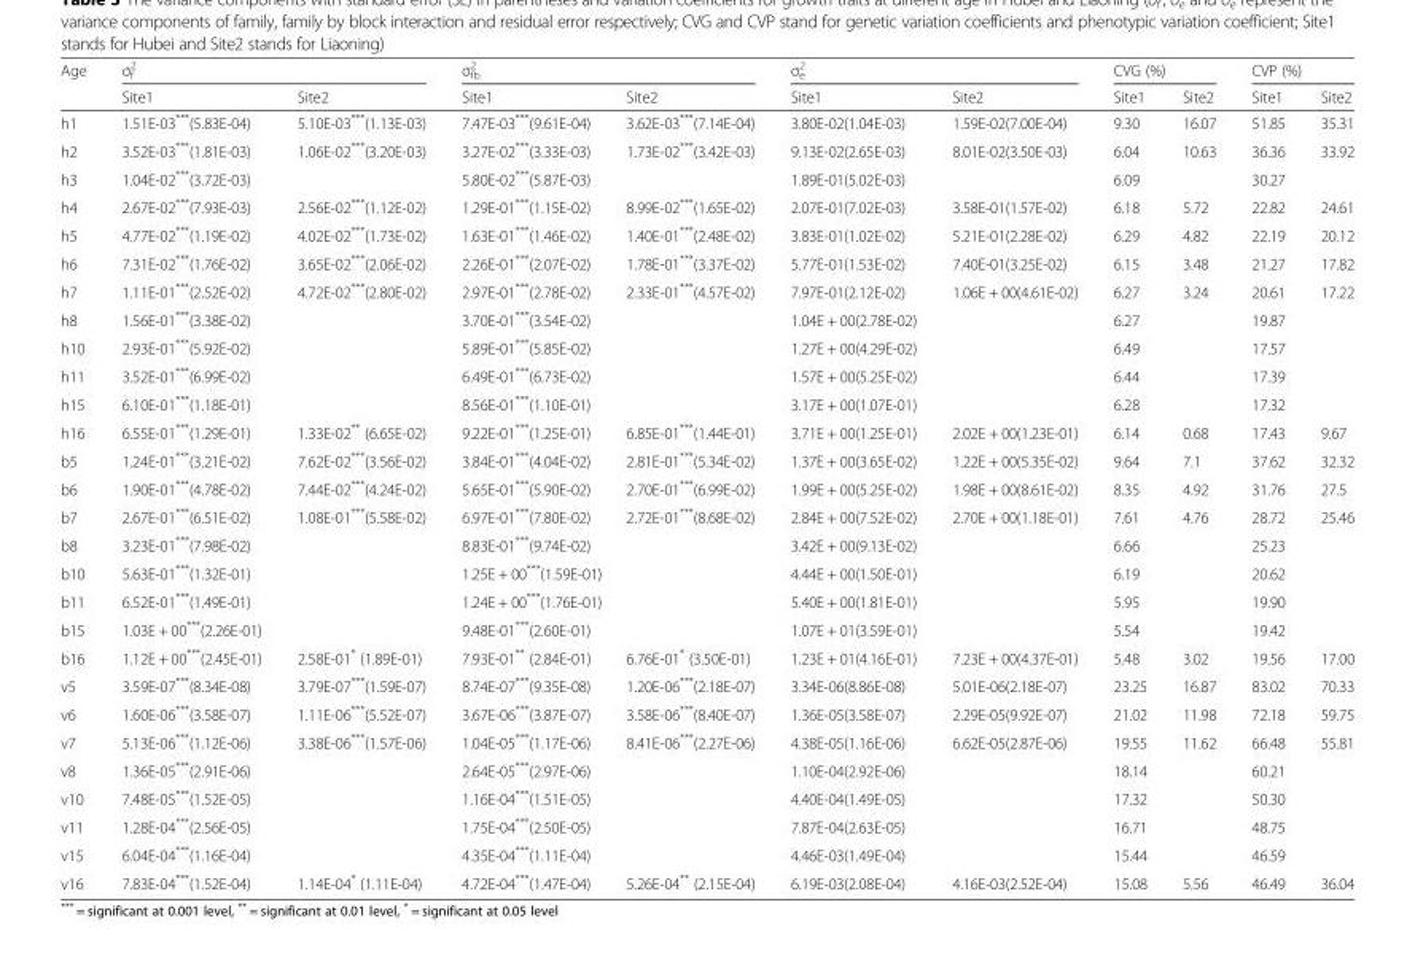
<table><thead><tr><td rowspan="2">Age</td><td colspan="2">σ<sub>f</sub> <sup>2</sup></td><td colspan="2">σ<sub>fb</sub> <sup>2</sup></td><td colspan="2">σ<sub>e</sub> <sup>2</sup></td><td colspan="2">CVG (%)</td><td colspan="2">CVP (%)</td></tr><tr><td>Site1</td><td>Site2</td><td>Site1</td><td>Site2</td><td>Site1</td><td>Site2</td><td>Site1</td><td>Site2</td><td>Site1</td><td>Site2</td></tr></thead><tbody><tr><td>h1</td><td>1.51E-03***(5.83E-04)</td><td>5.10E-03***(1.13E-03)</td><td>7.47E-03***(9.61E-04)</td><td>3.62E-03***(7.14E-04)</td><td>3.80E-02(1.04E-03)</td><td>1.59E-02(7.00E-04)</td><td>9.30</td><td>16.07</td><td>51.85</td><td>35.31</td></tr><tr><td>h2</td><td>3.52E-03***(1.81E-03)</td><td>1.06E-02***(3.20E-03)</td><td>3.27E-02***(3.33E-03)</td><td>1.73E-02***(3.42E-03)</td><td>9.13E-02(2.65E-03)</td><td>8.01E-02(3.50E-03)</td><td>6.04</td><td>10.63</td><td>36.36</td><td>33.92</td></tr><tr><td>h3</td><td>1.04E-02***(3.72E-03)</td><td></td><td>5.80E-02***(5.87E-03)</td><td></td><td>1.89E-01(5.02E-03)</td><td></td><td>6.09</td><td></td><td>30.27</td><td></td></tr><tr><td>h4</td><td>2.67E-02***(7.93E-03)</td><td>2.56E-02***(1.12E-02)</td><td>1.29E-01***(1.15E-02)</td><td>8.99E-02***(1.65E-02)</td><td>2.07E-01(7.02E-03)</td><td>3.58E-01(1.57E-02)</td><td>6.18</td><td>5.72</td><td>22.82</td><td>24.61</td></tr><tr><td>h5</td><td>4.77E-02***(1.19E-02)</td><td>4.02E-02***(1.73E-02)</td><td>1.63E-01***(1.46E-02)</td><td>1.40E-01***(2.48E-02)</td><td>3.83E-01(1.02E-02)</td><td>5.21E-01(2.28E-02)</td><td>6.29</td><td>4.82</td><td>22.19</td><td>20.12</td></tr><tr><td>h6</td><td>7.31E-02***(1.76E-02)</td><td>3.65E-02***(2.06E-02)</td><td>2.26E-01***(2.07E-02)</td><td>1.78E-01***(3.37E-02)</td><td>5.77E-01(1.53E-02)</td><td>7.40E-01(3.25E-02)</td><td>6.15</td><td>3.48</td><td>21.27</td><td>17.82</td></tr><tr><td>h7</td><td>1.11E-01***(2.52E-02)</td><td>4.72E-02***(2.80E-02)</td><td>2.97E-01***(2.78E-02)</td><td>2.33E-01***(4.57E-02)</td><td>7.97E-01(2.12E-02)</td><td>1.06E + 00(4.61E-02)</td><td>6.27</td><td>3.24</td><td>20.61</td><td>17.22</td></tr><tr><td>h8</td><td>1.56E-01***(3.38E-02)</td><td></td><td>3.70E-01***(3.54E-02)</td><td></td><td colspan="2">1.04E + 00(2.78E-02)</td><td>6.27</td><td></td><td>19.87</td><td></td></tr><tr><td>h10</td><td>2.93E-01***(5.92E-02)</td><td></td><td>5.89E-01***(5.85E-02)</td><td></td><td colspan="2">1.27E + 00(4.29E-02)</td><td>6.49</td><td></td><td>17.57</td><td></td></tr><tr><td>h11</td><td>3.52E-01***(6.99E-02)</td><td></td><td>6.49E-01***(6.73E-02)</td><td></td><td colspan="2">1.57E + 00(5.25E-02)</td><td>6.44</td><td></td><td>17.39</td><td></td></tr><tr><td>h15</td><td>6.10E-01***(1.18E-01)</td><td></td><td>8.56E-01***(1.10E-01)</td><td></td><td colspan="2">3.17E + 00(1.07E-01)</td><td>6.28</td><td></td><td>17.32</td><td></td></tr><tr><td>h16</td><td>6.55E-01***(1.29E-01)</td><td>1.33E-02** (6.65E-02)</td><td>9.22E-01***(1.25E-01)</td><td>6.85E-01***(1.44E-01)</td><td>3.71E + 00(1.25E-01)</td><td>2.02E + 00(1.23E-01)</td><td>6.14</td><td>0.68</td><td>17.43</td><td>9.67</td></tr><tr><td>b5</td><td>1.24E-01***(3.21E-02)</td><td>7.62E-02***(3.56E-02)</td><td>3.84E-01***(4.04E-02)</td><td>2.81E-01***(5.34E-02)</td><td>1.37E + 00(3.65E-02)</td><td>1.22E + 00(5.35E-02)</td><td>9.64</td><td>7.1</td><td>37.62</td><td>32.32</td></tr><tr><td>b6</td><td>1.90E-01***(4.78E-02)</td><td>7.44E-02***(4.24E-02)</td><td>5.65E-01***(5.90E-02)</td><td>2.70E-01***(6.99E-02)</td><td>1.99E + 00(5.25E-02)</td><td>1.98E + 00(8.61E-02)</td><td>8.35</td><td>4.92</td><td>31.76</td><td>27.5</td></tr><tr><td>b7</td><td>2.67E-01***(6.51E-02)</td><td>1.08E-01***(5.58E-02)</td><td>6.97E-01***(7.80E-02)</td><td>2.72E-01***(8.68E-02)</td><td>2.84E + 00(7.52E-02)</td><td>2.70E + 00(1.18E-01)</td><td>7.61</td><td>4.76</td><td>28.72</td><td>25.46</td></tr><tr><td>b8</td><td>3.23E-01***(7.98E-02)</td><td></td><td>8.83E-01***(9.74E-02)</td><td></td><td colspan="2">3.42E + 00(9.13E-02)</td><td>6.66</td><td></td><td>25.23</td><td></td></tr><tr><td>b10</td><td>5.63E-01***(1.32E-01)</td><td></td><td colspan="2">1.25E + 00***(1.59E-01)</td><td colspan="2">4.44E + 00(1.50E-01)</td><td>6.19</td><td></td><td>20.62</td><td></td></tr><tr><td>b11</td><td>6.52E-01***(1.49E-01)</td><td></td><td colspan="2">1.24E + 00***(1.76E-01)</td><td colspan="2">5.40E + 00(1.81E-01)</td><td>5.95</td><td></td><td>19.90</td><td></td></tr><tr><td>b15</td><td colspan="2">1.03E + 00***(2.26E-01)</td><td>9.48E-01***(2.60E-01)</td><td></td><td colspan="2">1.07E + 01(3.59E-01)</td><td>5.54</td><td></td><td>19.42</td><td></td></tr><tr><td>b16</td><td>1.12E + 00***(2.45E-01)</td><td>2.58E-01* (1.89E-01)</td><td>7.93E-01** (2.84E-01)</td><td>6.76E-01* (3.50E-01)</td><td>1.23E + 01(4.16E-01)</td><td>7.23E + 00(4.37E-01)</td><td>5.48</td><td>3.02</td><td>19.56</td><td>17.00</td></tr><tr><td>v5</td><td>3.59E-07***(8.34E-08)</td><td>3.79E-07***(1.59E-07)</td><td>8.74E-07***(9.35E-08)</td><td>1.20E-06***(2.18E-07)</td><td>3.34E-06(8.86E-08)</td><td>5.01E-06(2.18E-07)</td><td>23.25</td><td>16.87</td><td>83.02</td><td>70.33</td></tr><tr><td>v6</td><td>1.60E-06***(3.58E-07)</td><td>1.11E-06***(5.52E-07)</td><td>3.67E-06***(3.87E-07)</td><td>3.58E-06***(8.40E-07)</td><td>1.36E-05(3.58E-07)</td><td>2.29E-05(9.92E-07)</td><td>21.02</td><td>11.98</td><td>72.18</td><td>59.75</td></tr><tr><td>v7</td><td>5.13E-06***(1.12E-06)</td><td>3.38E-06***(1.57E-06)</td><td>1.04E-05***(1.17E-06)</td><td>8.41E-06***(2.27E-06)</td><td>4.38E-05(1.16E-06)</td><td>6.62E-05(2.87E-06)</td><td>19.55</td><td>11.62</td><td>66.48</td><td>55.81</td></tr><tr><td>v8</td><td>1.36E-05***(2.91E-06)</td><td></td><td>2.64E-05***(2.97E-06)</td><td></td><td>1.10E-04(2.92E-06)</td><td></td><td>18.14</td><td></td><td>60.21</td><td></td></tr><tr><td>v10</td><td>7.48E-05***(1.52E-05)</td><td></td><td>1.16E-04***(1.51E-05)</td><td></td><td>4.40E-04(1.49E-05)</td><td></td><td>17.32</td><td></td><td>50.30</td><td></td></tr><tr><td>v11</td><td>1.28E-04***(2.56E-05)</td><td></td><td>1.75E-04***(2.50E-05)</td><td></td><td>7.87E-04(2.63E-05)</td><td></td><td>16.71</td><td></td><td>48.75</td><td></td></tr><tr><td>v15</td><td>6.04E-04***(1.16E-04)</td><td></td><td>4.35E-04***(1.11E-04)</td><td></td><td>4.46E-03(1.49E-04)</td><td></td><td>15.44</td><td></td><td>46.59</td><td></td></tr><tr><td>v16</td><td>7.83E-04***(1.52E-04)</td><td>1.14E-04* (1.11E-04)</td><td>4.72E-04***(1.47E-04)</td><td>5.26E-04** (2.15E-04)</td><td>6.19E-03(2.08E-04)</td><td>4.16E-03(2.52E-04)</td><td>15.08</td><td>5.56</td><td>46.49</td><td>36.04</td></tr></tbody></table>